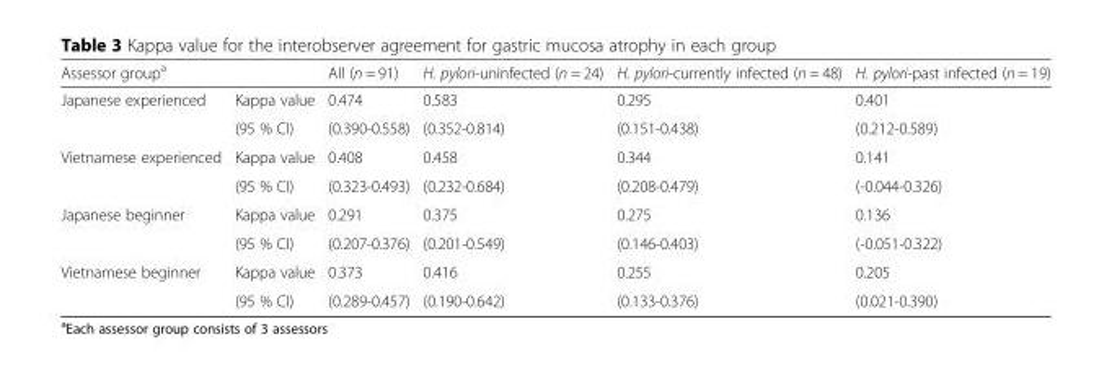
<table><thead><tr><td>Assessor group<sup>a</sup></td><td></td><td>All (n = 91)</td><td>H. pylori-uninfected (n = 24)</td><td>H. pylori-currently infected (n = 48)</td><td>H. pylori-past infected (n = 19)</td></tr></thead><tbody><tr><td rowspan="2">Japanese experienced</td><td>Kappa value</td><td>0.474</td><td>0.583</td><td>0.295</td><td>0.401</td></tr><tr><td>(95 % CI)</td><td>(0.390-0.558)</td><td>(0.352-0.814)</td><td>(0.151-0.438)</td><td>(0.212-0.589)</td></tr><tr><td rowspan="2">Vietnamese experienced</td><td>Kappa value</td><td>0.408</td><td>0.458</td><td>0.344</td><td>0.141</td></tr><tr><td>(95 % CI)</td><td>(0.323-0.493)</td><td>(0.232-0.684)</td><td>(0.208-0.479)</td><td>(-0.044-0.326)</td></tr><tr><td rowspan="2">Japanese beginner</td><td>Kappa value</td><td>0.291</td><td>0.375</td><td>0.275</td><td>0.136</td></tr><tr><td>(95 % CI)</td><td>(0.207-0.376)</td><td>(0.201-0.549)</td><td>(0.146-0.403)</td><td>(-0.051-0.322)</td></tr><tr><td rowspan="2">Vietnamese beginner</td><td>Kappa value</td><td>0.373</td><td>0.416</td><td>0.255</td><td>0.205</td></tr><tr><td>(95 % CI)</td><td>(0.289-0.457)</td><td>(0.190-0.642)</td><td>(0.133-0.376)</td><td>(0.021-0.390)</td></tr></tbody></table>